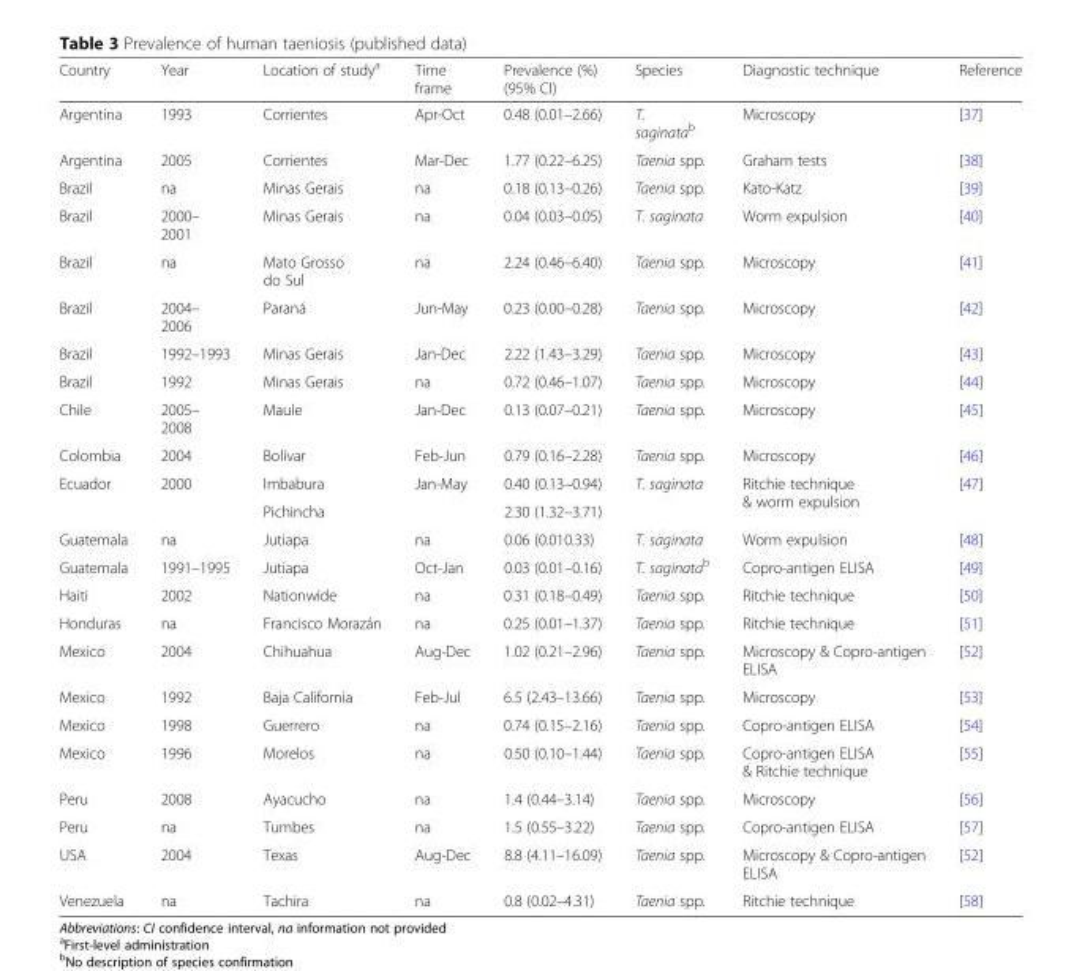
<table><thead><tr><td>Country</td><td>Year</td><td>Location of study<sup>a</sup></td><td>Time frame</td><td>Prevalence (%) (95% CI)</td><td>Species</td><td>Diagnostic technique</td><td>Reference</td></tr></thead><tbody><tr><td>Argentina</td><td>1993</td><td>Corrientes</td><td>Apr-Oct</td><td>0.48 (0.01–2.66)</td><td>T. saginata<sup>b</sup></td><td>Microscopy</td><td>[37]</td></tr><tr><td>Argentina</td><td>2005</td><td>Corrientes</td><td>Mar-Dec</td><td>1.77 (0.22–6.25)</td><td>Taenia spp.</td><td>Graham tests</td><td>[38]</td></tr><tr><td>Brazil</td><td>na</td><td>Minas Gerais</td><td>na</td><td>0.18 (0.13–0.26)</td><td>Taenia spp.</td><td>Kato-Katz</td><td>[39]</td></tr><tr><td>Brazil</td><td>2000– 2001</td><td>Minas Gerais</td><td>na</td><td>0.04 (0.03–0.05)</td><td>T. saginata</td><td>Worm expulsion</td><td>[40]</td></tr><tr><td>Brazil</td><td>na</td><td>Mato Grosso do Sul</td><td>na</td><td>2.24 (0.46–6.40)</td><td>Taenia spp.</td><td>Microscopy</td><td>[41]</td></tr><tr><td>Brazil</td><td>2004– 2006</td><td>Paraná</td><td>Jun-May</td><td>0.23 (0.00–0.28)</td><td>Taenia spp.</td><td>Microscopy</td><td>[42]</td></tr><tr><td>Brazil</td><td>1992–1993</td><td>Minas Gerais</td><td>Jan-Dec</td><td>2.22 (1.43–3.29)</td><td>Taenia spp.</td><td>Microscopy</td><td>[43]</td></tr><tr><td>Brazil</td><td>1992</td><td>Minas Gerais</td><td>na</td><td>0.72 (0.46–1.07)</td><td>Taenia spp.</td><td>Microscopy</td><td>[44]</td></tr><tr><td>Chile</td><td>2005– 2008</td><td>Maule</td><td>Jan-Dec</td><td>0.13 (0.07–0.21)</td><td>Taenia spp.</td><td>Microscopy</td><td>[45]</td></tr><tr><td>Colombia</td><td>2004</td><td>Bolívar</td><td>Feb-Jun</td><td>0.79 (0.16–2.28)</td><td>Taenia spp.</td><td>Microscopy</td><td>[46]</td></tr><tr><td rowspan="2">Ecuador</td><td rowspan="2">2000</td><td>Imbabura</td><td rowspan="2">Jan-May</td><td>0.40 (0.13–0.94)</td><td rowspan="2">T. saginata</td><td rowspan="2">Ritchie technique &amp; worm expulsion</td><td rowspan="2">[47]</td></tr><tr><td>Pichincha</td><td>2.30 (1.32–3.71)</td></tr><tr><td>Guatemala</td><td>na</td><td>Jutiapa</td><td>na</td><td>0.06 (0.010.33)</td><td>T. saginata</td><td>Worm expulsion</td><td>[48]</td></tr><tr><td>Guatemala</td><td>1991–1995</td><td>Jutiapa</td><td>Oct-Jan</td><td>0.03 (0.01–0.16)</td><td>T. saginata<sup>b</sup></td><td>Copro-antigen ELISA</td><td>[49]</td></tr><tr><td>Haiti</td><td>2002</td><td>Nationwide</td><td>na</td><td>0.31 (0.18–0.49)</td><td>Taenia spp.</td><td>Ritchie technique</td><td>[50]</td></tr><tr><td>Honduras</td><td>na</td><td>Francisco Morazán</td><td>na</td><td>0.25 (0.01–1.37)</td><td>Taenia spp.</td><td>Ritchie technique</td><td>[51]</td></tr><tr><td>Mexico</td><td>2004</td><td>Chihuahua</td><td>Aug-Dec</td><td>1.02 (0.21–2.96)</td><td>Taenia spp.</td><td>Microscopy &amp; Copro-antigen ELISA</td><td>[52]</td></tr><tr><td>Mexico</td><td>1992</td><td>Baja California</td><td>Feb-Jul</td><td>6.5 (2.43–13.66)</td><td>Taenia spp.</td><td>Microscopy</td><td>[53]</td></tr><tr><td>Mexico</td><td>1998</td><td>Guerrero</td><td>na</td><td>0.74 (0.15–2.16)</td><td>Taenia spp.</td><td>Copro-antigen ELISA</td><td>[54]</td></tr><tr><td>Mexico</td><td>1996</td><td>Morelos</td><td>na</td><td>0.50 (0.10–1.44)</td><td>Taenia spp.</td><td>Copro-antigen ELISA &amp; Ritchie technique</td><td>[55]</td></tr><tr><td>Peru</td><td>2008</td><td>Ayacucho</td><td>na</td><td>1.4 (0.44–3.14)</td><td>Taenia spp.</td><td>Microscopy</td><td>[56]</td></tr><tr><td>Peru</td><td>na</td><td>Tumbes</td><td>na</td><td>1.5 (0.55–3.22)</td><td>Taenia spp.</td><td>Copro-antigen ELISA</td><td>[57]</td></tr><tr><td>USA</td><td>2004</td><td>Texas</td><td>Aug-Dec</td><td>8.8 (4.11–16.09)</td><td>Taenia spp.</td><td>Microscopy &amp; Copro-antigen ELISA</td><td>[52]</td></tr><tr><td>Venezuela</td><td>na</td><td>Tachira</td><td>na</td><td>0.8 (0.02–4.31)</td><td>Taenia spp.</td><td>Ritchie technique</td><td>[58]</td></tr></tbody></table>